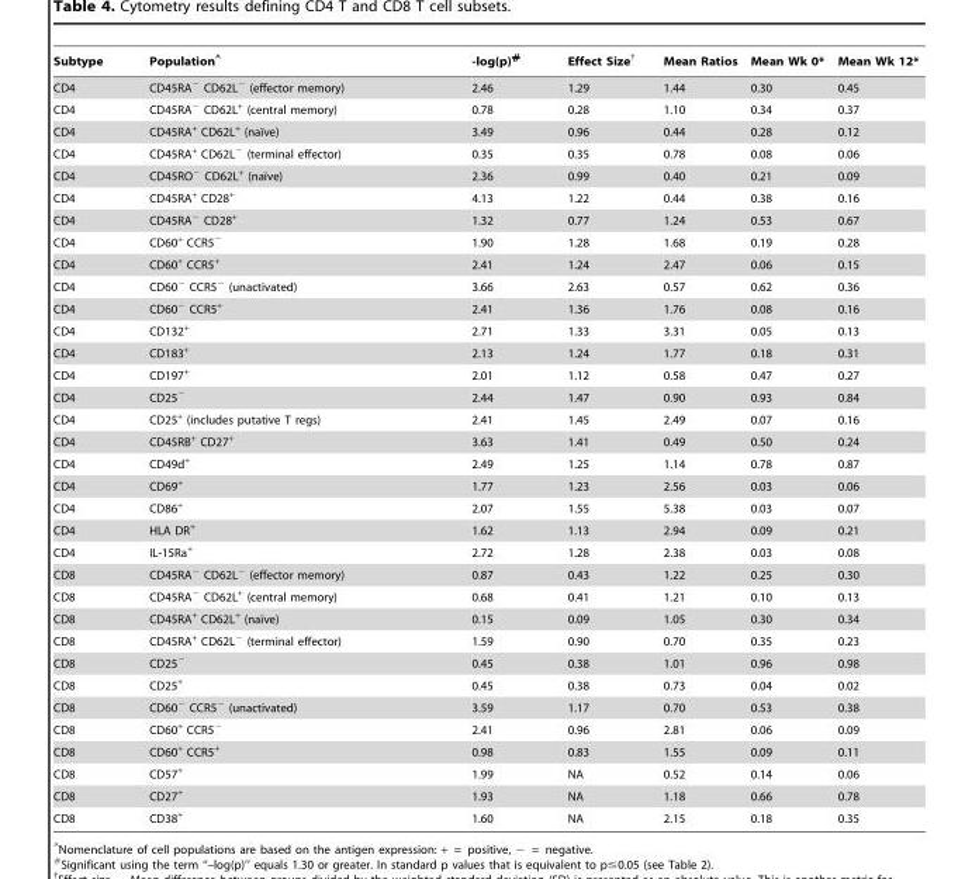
<table><thead><tr><td>Subtype</td><td>Population^</td><td>-log(p)#</td><td>Effect Size†</td><td>Mean Ratios</td><td>Mean Wk 0*</td><td>Mean Wk 12*</td></tr></thead><tbody><tr><td>CD4</td><td>CD45RA<sup>−</sup> CD62L<sup>−</sup> (effector memory)</td><td>2.46</td><td>1.29</td><td>1.44</td><td>0.30</td><td>0.45</td></tr><tr><td>CD4</td><td>CD45RA<sup>−</sup> CD62L<sup>+</sup> (central memory)</td><td>0.78</td><td>0.28</td><td>1.10</td><td>0.34</td><td>0.37</td></tr><tr><td>CD4</td><td>CD45RA+ CD62L+ (naı¨ve)</td><td>3.49</td><td>0.96</td><td>0.44</td><td>0.28</td><td>0.12</td></tr><tr><td>CD4</td><td>CD45RA<sup>+</sup> CD62L<sup>−</sup> (terminal effector)</td><td>0.35</td><td>0.35</td><td>0.78</td><td>0.08</td><td>0.06</td></tr><tr><td>CD4</td><td>CD45RO2 CD62L+ (naı¨ve)</td><td>2.36</td><td>0.99</td><td>0.40</td><td>0.21</td><td>0.09</td></tr><tr><td>CD4</td><td>CD45RA<sup>+</sup> CD28<sup>+</sup></td><td>4.13</td><td>1.22</td><td>0.44</td><td>0.38</td><td>0.16</td></tr><tr><td>CD4</td><td>CD45RA<sup>−</sup> CD28<sup>+</sup></td><td>1.32</td><td>0.77</td><td>1.24</td><td>0.53</td><td>0.67</td></tr><tr><td>CD4</td><td>CD60<sup>+</sup> CCR5<sup>−</sup></td><td>1.90</td><td>1.28</td><td>1.68</td><td>0.19</td><td>0.28</td></tr><tr><td>CD4</td><td>CD60<sup>+</sup> CCR5<sup>+</sup></td><td>2.41</td><td>1.24</td><td>2.47</td><td>0.06</td><td>0.15</td></tr><tr><td>CD4</td><td>CD60<sup>−</sup> CCR5<sup>−</sup> (unactivated)</td><td>3.66</td><td>2.63</td><td>0.57</td><td>0.62</td><td>0.36</td></tr><tr><td>CD4</td><td>CD60<sup>−</sup> CCR5<sup>+</sup></td><td>2.41</td><td>1.36</td><td>1.76</td><td>0.08</td><td>0.16</td></tr><tr><td>CD4</td><td>CD132<sup>+</sup></td><td>2.71</td><td>1.33</td><td>3.31</td><td>0.05</td><td>0.13</td></tr><tr><td>CD4</td><td>CD183<sup>+</sup></td><td>2.13</td><td>1.24</td><td>1.77</td><td>0.18</td><td>0.31</td></tr><tr><td>CD4</td><td>CD197<sup>+</sup></td><td>2.01</td><td>1.12</td><td>0.58</td><td>0.47</td><td>0.27</td></tr><tr><td>CD4</td><td>CD25<sup>−</sup></td><td>2.44</td><td>1.47</td><td>0.90</td><td>0.93</td><td>0.84</td></tr><tr><td>CD4</td><td>CD25<sup>+</sup> (includes putative T regs)</td><td>2.41</td><td>1.45</td><td>2.49</td><td>0.07</td><td>0.16</td></tr><tr><td>CD4</td><td>CD45RB<sup>+</sup> CD27<sup>+</sup></td><td>3.63</td><td>1.41</td><td>0.49</td><td>0.50</td><td>0.24</td></tr><tr><td>CD4</td><td>CD49d<sup>+</sup></td><td>2.49</td><td>1.25</td><td>1.14</td><td>0.78</td><td>0.87</td></tr><tr><td>CD4</td><td>CD69<sup>+</sup></td><td>1.77</td><td>1.23</td><td>2.56</td><td>0.03</td><td>0.06</td></tr><tr><td>CD4</td><td>CD86<sup>+</sup></td><td>2.07</td><td>1.55</td><td>5.38</td><td>0.03</td><td>0.07</td></tr><tr><td>CD4</td><td>HLA DR<sup>+</sup></td><td>1.62</td><td>1.13</td><td>2.94</td><td>0.09</td><td>0.21</td></tr><tr><td>CD4</td><td>IL-15Ra<sup>+</sup></td><td>2.72</td><td>1.28</td><td>2.38</td><td>0.03</td><td>0.08</td></tr><tr><td>CD8</td><td>CD45RA<sup>−</sup> CD62L<sup>−</sup> (effector memory)</td><td>0.87</td><td>0.43</td><td>1.22</td><td>0.25</td><td>0.30</td></tr><tr><td>CD8</td><td>CD45RA<sup>−</sup> CD62L<sup>+</sup> (central memory)</td><td>0.68</td><td>0.41</td><td>1.21</td><td>0.10</td><td>0.13</td></tr><tr><td>CD8</td><td>CD45RA+ CD62L+ (naı¨ve)</td><td>0.15</td><td>0.09</td><td>1.05</td><td>0.30</td><td>0.34</td></tr><tr><td>CD8</td><td>CD45RA<sup>+</sup> CD62L<sup>−</sup> (terminal effector)</td><td>1.59</td><td>0.90</td><td>0.70</td><td>0.35</td><td>0.23</td></tr><tr><td>CD8</td><td>CD25<sup>−</sup></td><td>0.45</td><td>0.38</td><td>1.01</td><td>0.96</td><td>0.98</td></tr><tr><td>CD8</td><td>CD25<sup>+</sup></td><td>0.45</td><td>0.38</td><td>0.73</td><td>0.04</td><td>0.02</td></tr><tr><td>CD8</td><td>CD60<sup>−</sup> CCR5<sup>−</sup> (unactivated)</td><td>3.59</td><td>1.17</td><td>0.70</td><td>0.53</td><td>0.38</td></tr><tr><td>CD8</td><td>CD60<sup>+</sup> CCR5<sup>−</sup></td><td>2.41</td><td>0.96</td><td>2.81</td><td>0.06</td><td>0.09</td></tr><tr><td>CD8</td><td>CD60<sup>+</sup> CCR5<sup>+</sup></td><td>0.98</td><td>0.83</td><td>1.55</td><td>0.09</td><td>0.11</td></tr><tr><td>CD8</td><td>CD57<sup>+</sup></td><td>1.99</td><td>NA</td><td>0.52</td><td>0.14</td><td>0.06</td></tr><tr><td>CD8</td><td>CD27<sup>+</sup></td><td>1.93</td><td>NA</td><td>1.18</td><td>0.66</td><td>0.78</td></tr><tr><td>CD8</td><td>CD38<sup>+</sup></td><td>1.60</td><td>NA</td><td>2.15</td><td>0.18</td><td>0.35</td></tr></tbody></table>